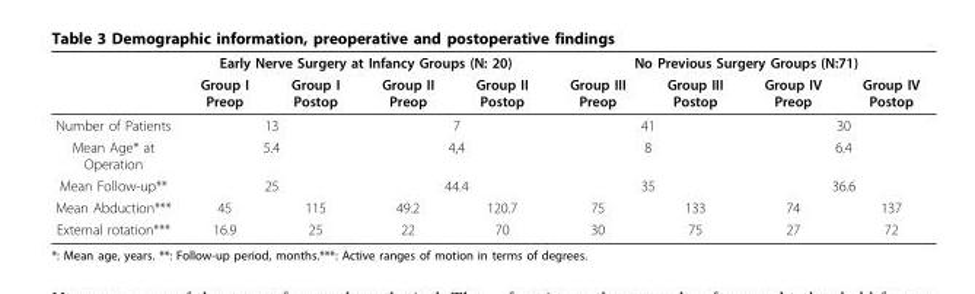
<table><thead><tr><td rowspan="2"></td><td colspan="4">Early Nerve Surgery at Infancy Groups (N: 20)</td><td colspan="4">No Previous Surgery Groups (N:71)</td></tr><tr><td>Group I Preop</td><td>Group I Postop</td><td>Group II Preop</td><td>Group II Postop</td><td>Group III Preop</td><td>Group III Postop</td><td>Group IV Preop</td><td>Group IV Postop</td></tr></thead><tbody><tr><td>Number of Patients</td><td colspan="2">13</td><td colspan="2">7</td><td colspan="2">41</td><td colspan="2">30</td></tr><tr><td>Mean Age* at Operation</td><td colspan="2">5.4</td><td colspan="2">4,4</td><td colspan="2">8</td><td colspan="2">6.4</td></tr><tr><td>Mean Follow-up**</td><td colspan="2">25</td><td colspan="2">44.4</td><td colspan="2">35</td><td colspan="2">36.6</td></tr><tr><td>Mean Abduction***</td><td>45</td><td>115</td><td>49.2</td><td>120.7</td><td>75</td><td>133</td><td>74</td><td>137</td></tr><tr><td>External rotation***</td><td>16.9</td><td>25</td><td>22</td><td>70</td><td>30</td><td>75</td><td>27</td><td>72</td></tr></tbody></table>